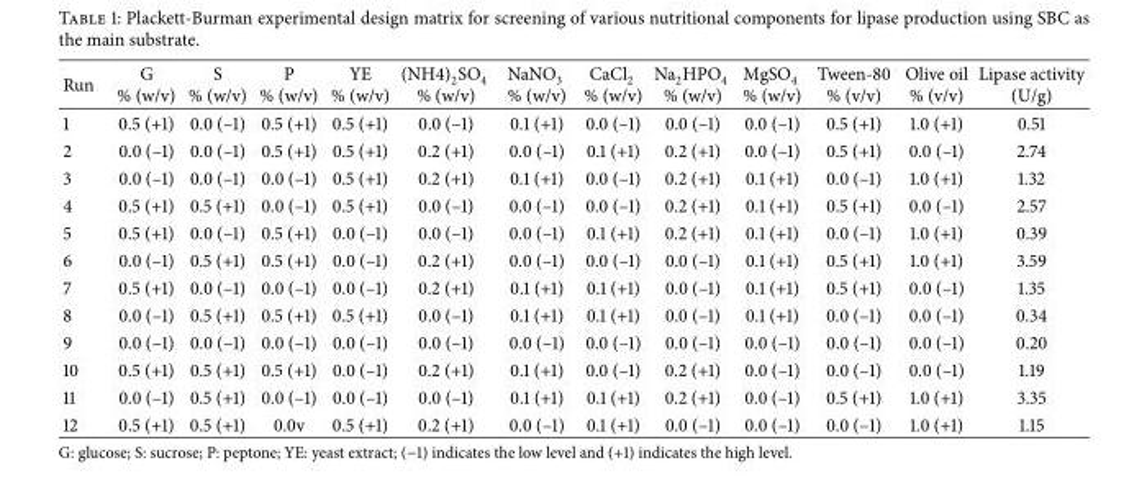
<table><thead><tr><td>Run</td><td>G % (w/v)</td><td>S % (w/v)</td><td>P % (w/v)</td><td>YE % (w/v)</td><td>(NH4)<sub>2</sub>SO<sub>4</sub> % (w/v)</td><td>NaNO<sub>3</sub> % (w/v)</td><td>CaCl<sub>2</sub> % (w/v)</td><td>Na<sub>2</sub>HPO<sub>4</sub> % (w/v)</td><td>MgSO<sub>4</sub> % (w/v)</td><td>Tween-80 % (v/v)</td><td>Olive oil % (v/v)</td><td>Lipase activity (U/g)</td></tr></thead><tbody><tr><td>1</td><td>0.5 (+1)</td><td>0.0 (–1)</td><td>0.5 (+1)</td><td>0.5 (+1)</td><td>0.0 (–1)</td><td>0.1 (+1)</td><td>0.0 (–1)</td><td>0.0 (–1)</td><td>0.0 (–1)</td><td>0.5 (+1)</td><td>1.0 (+1)</td><td>0.51</td></tr><tr><td>2</td><td>0.0 (–1)</td><td>0.0 (–1)</td><td>0.5 (+1)</td><td>0.5 (+1)</td><td>0.2 (+1)</td><td>0.0 (–1)</td><td>0.1 (+1)</td><td>0.2 (+1)</td><td>0.0 (–1)</td><td>0.5 (+1)</td><td>0.0 (–1)</td><td>2.74</td></tr><tr><td>3</td><td>0.0 (–1)</td><td>0.0 (–1)</td><td>0.0 (–1)</td><td>0.5 (+1)</td><td>0.2 (+1)</td><td>0.1 (+1)</td><td>0.0 (–1)</td><td>0.2 (+1)</td><td>0.1 (+1)</td><td>0.0 (–1)</td><td>1.0 (+1)</td><td>1.32</td></tr><tr><td>4</td><td>0.5 (+1)</td><td>0.5 (+1)</td><td>0.0 (–1)</td><td>0.5 (+1)</td><td>0.0 (–1)</td><td>0.0 (–1)</td><td>0.0 (–1)</td><td>0.2 (+1)</td><td>0.1 (+1)</td><td>0.5 (+1)</td><td>0.0 (–1)</td><td>2.57</td></tr><tr><td>5</td><td>0.5 (+1)</td><td>0.0 (–1)</td><td>0.5 (+1)</td><td>0.0 (–1)</td><td>0.0 (–1)</td><td>0.0 (–1)</td><td>0.1 (+1)</td><td>0.2 (+1)</td><td>0.1 (+1)</td><td>0.0 (–1)</td><td>1.0 (+1)</td><td>0.39</td></tr><tr><td>6</td><td>0.0 (–1)</td><td>0.5 (+1)</td><td>0.5 (+1)</td><td>0.0 (–1)</td><td>0.2 (+1)</td><td>0.0 (–1)</td><td>0.0 (–1)</td><td>0.0 (–1)</td><td>0.1 (+1)</td><td>0.5 (+1)</td><td>1.0 (+1)</td><td>3.59</td></tr><tr><td>7</td><td>0.5 (+1)</td><td>0.0 (–1)</td><td>0.0 (–1)</td><td>0.0 (–1)</td><td>0.2 (+1)</td><td>0.1 (+1)</td><td>0.1 (+1)</td><td>0.0 (–1)</td><td>0.1 (+1)</td><td>0.5 (+1)</td><td>0.0 (–1)</td><td>1.35</td></tr><tr><td>8</td><td>0.0 (–1)</td><td>0.5 (+1)</td><td>0.5 (+1)</td><td>0.5 (+1)</td><td>0.0 (–1)</td><td>0.1 (+1)</td><td>0.1 (+1)</td><td>0.0 (–1)</td><td>0.1 (+1)</td><td>0.0 (–1)</td><td>0.0 (–1)</td><td>0.34</td></tr><tr><td>9</td><td>0.0 (–1)</td><td>0.0 (–1)</td><td>0.0 (–1)</td><td>0.0 (–1)</td><td>0.0 (–1)</td><td>0.0 (–1)</td><td>0.0 (–1)</td><td>0.0 (–1)</td><td>0.0 (–1)</td><td>0.0 (–1)</td><td>0.0 (–1)</td><td>0.20</td></tr><tr><td>10</td><td>0.5 (+1)</td><td>0.5 (+1)</td><td>0.5 (+1)</td><td>0.0 (–1)</td><td>0.2 (+1)</td><td>0.1 (+1)</td><td>0.0 (–1)</td><td>0.2 (+1)</td><td>0.0 (–1)</td><td>0.0 (–1)</td><td>0.0 (–1)</td><td>1.19</td></tr><tr><td>11</td><td>0.0 (–1)</td><td>0.5 (+1)</td><td>0.0 (–1)</td><td>0.0 (–1)</td><td>0.0 (–1)</td><td>0.1 (+1)</td><td>0.1 (+1)</td><td>0.2 (+1)</td><td>0.0 (–1)</td><td>0.5 (+1)</td><td>1.0 (+1)</td><td>3.35</td></tr><tr><td>12</td><td>0.5 (+1)</td><td>0.5 (+1)</td><td>0.0v</td><td>0.5 (+1)</td><td>0.2 (+1)</td><td>0.0 (–1)</td><td>0.1 (+1)</td><td>0.0 (–1)</td><td>0.0 (–1)</td><td>0.0 (–1)</td><td>1.0 (+1)</td><td>1.15</td></tr></tbody></table>